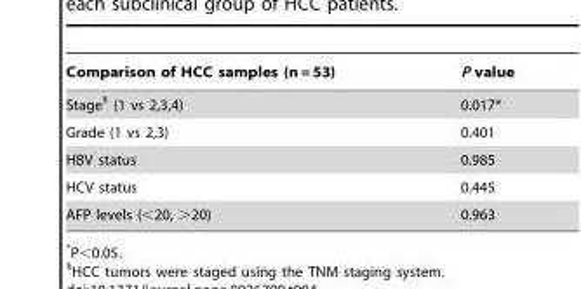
<table><thead><tr><td>Comparison of HCC samples (n = 53)</td><td>P value</td></tr></thead><tbody><tr><td>Stage§ (1 vs 2,3,4)</td><td>0.017*</td></tr><tr><td>Grade (1 vs 2,3)</td><td>0.401</td></tr><tr><td>HBV status</td><td>0.985</td></tr><tr><td>HCV status</td><td>0.445</td></tr><tr><td>AFP levels (&lt;20, &gt;20)</td><td>0.963</td></tr></tbody></table>